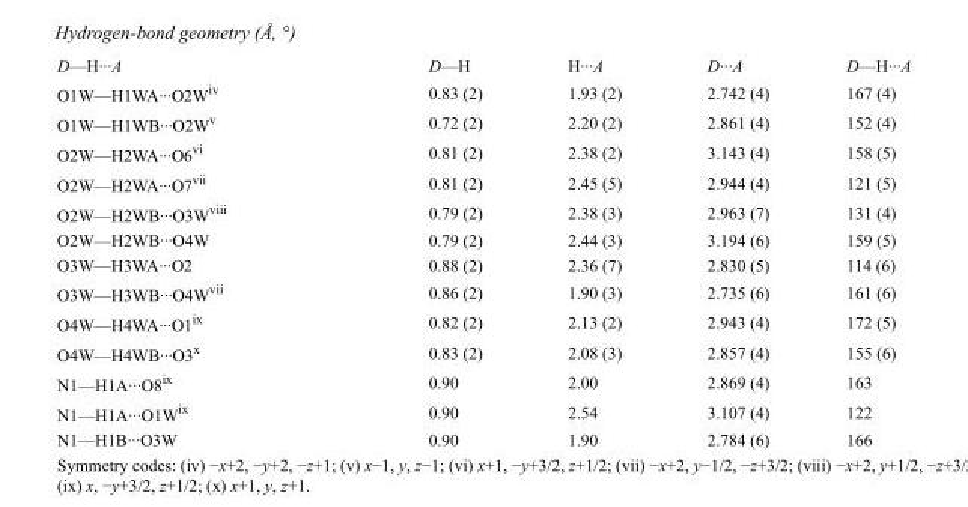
<table><tbody><tr><td>D—H···A</td><td>D—H</td><td>H···A</td><td>D···A</td><td>D—H···A</td></tr><tr><td>O1W—H1WA···O2W<sup>iv</sup></td><td>0.83 (2)</td><td>1.93 (2)</td><td>2.742 (4)</td><td>167 (4)</td></tr><tr><td>O1W—H1WB···O2W<sup>v</sup></td><td>0.72 (2)</td><td>2.20 (2)</td><td>2.861 (4)</td><td>152 (4)</td></tr><tr><td>O2W—H2WA···O6<sup>vi</sup></td><td>0.81 (2)</td><td>2.38 (2)</td><td>3.143 (4)</td><td>158 (5)</td></tr><tr><td>O2W—H2WA···O7<sup>vii</sup></td><td>0.81 (2)</td><td>2.45 (5)</td><td>2.944 (4)</td><td>121 (5)</td></tr><tr><td>O2W—H2WB···O3W<sup>viii</sup></td><td>0.79 (2)</td><td>2.38 (3)</td><td>2.963 (7)</td><td>131 (4)</td></tr><tr><td>O2W—H2WB···O4W</td><td>0.79 (2)</td><td>2.44 (3)</td><td>3.194 (6)</td><td>159 (5)</td></tr><tr><td>O3W—H3WA···O2</td><td>0.88 (2)</td><td>2.36 (7)</td><td>2.830 (5)</td><td>114 (6)</td></tr><tr><td>O3W—H3WB···O4W<sup>vii</sup></td><td>0.86 (2)</td><td>1.90 (3)</td><td>2.735 (6)</td><td>161 (6)</td></tr><tr><td>O4W—H4WA···O1<sup>ix</sup></td><td>0.82 (2)</td><td>2.13 (2)</td><td>2.943 (4)</td><td>172 (5)</td></tr><tr><td>O4W—H4WB···O3<sup>x</sup></td><td>0.83 (2)</td><td>2.08 (3)</td><td>2.857 (4)</td><td>155 (6)</td></tr><tr><td>N1—H1A···O8<sup>ix</sup></td><td>0.90</td><td>2.00</td><td>2.869 (4)</td><td>163</td></tr><tr><td>N1—H1A···O1W<sup>ix</sup></td><td>0.90</td><td>2.54</td><td>3.107 (4)</td><td>122</td></tr><tr><td>N1—H1B···O3W</td><td>0.90</td><td>1.90</td><td>2.784 (6)</td><td>166</td></tr></tbody></table>